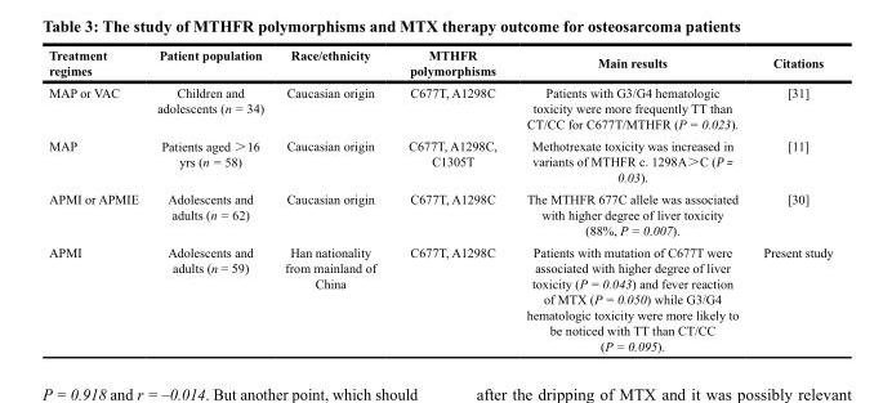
<table><thead><tr><td>Treatment regimes</td><td>Patient population</td><td>Race/ethnicity</td><td>MTHFR polymorphisms</td><td>Main results</td><td>Citations</td></tr></thead><tbody><tr><td>MAP or VAC</td><td>Children and adolescents (n = 34)</td><td>Caucasian origin</td><td>C677T, A1298C</td><td>Patients with G3/G4 hematologic toxicity were more frequently TT than CT/CC for C677T/MTHFR (P = 0.023).</td><td>[31]</td></tr><tr><td>MAP</td><td>Patients aged ＞16 yrs (n = 58)</td><td>Caucasian origin</td><td>C677T, A1298C, C1305T</td><td>Methotrexate toxicity was increased in variants of MTHFR c. 1298A＞C (P = 0.03).</td><td>[11]</td></tr><tr><td>APMI or APMIE</td><td>Adolescents and adults (n = 62)</td><td>Caucasian origin</td><td>C677T, A1298C</td><td>The MTHFR 677C allele was associated with higher degree of liver toxicity (88%, P = 0.007).</td><td>[30]</td></tr><tr><td>APMI</td><td>Adolescents and adults (n = 59)</td><td>Han nationality from mainland of China</td><td>C677T, A1298C</td><td>Patients with mutation of C677T were associated with higher degree of liver toxicity (P = 0.043) and fever reaction of MTX (P = 0.050) while G3/G4 hematologic toxicity were more likely to be noticed with TT than CT/CC (P = 0.095).</td><td>Present study</td></tr></tbody></table>